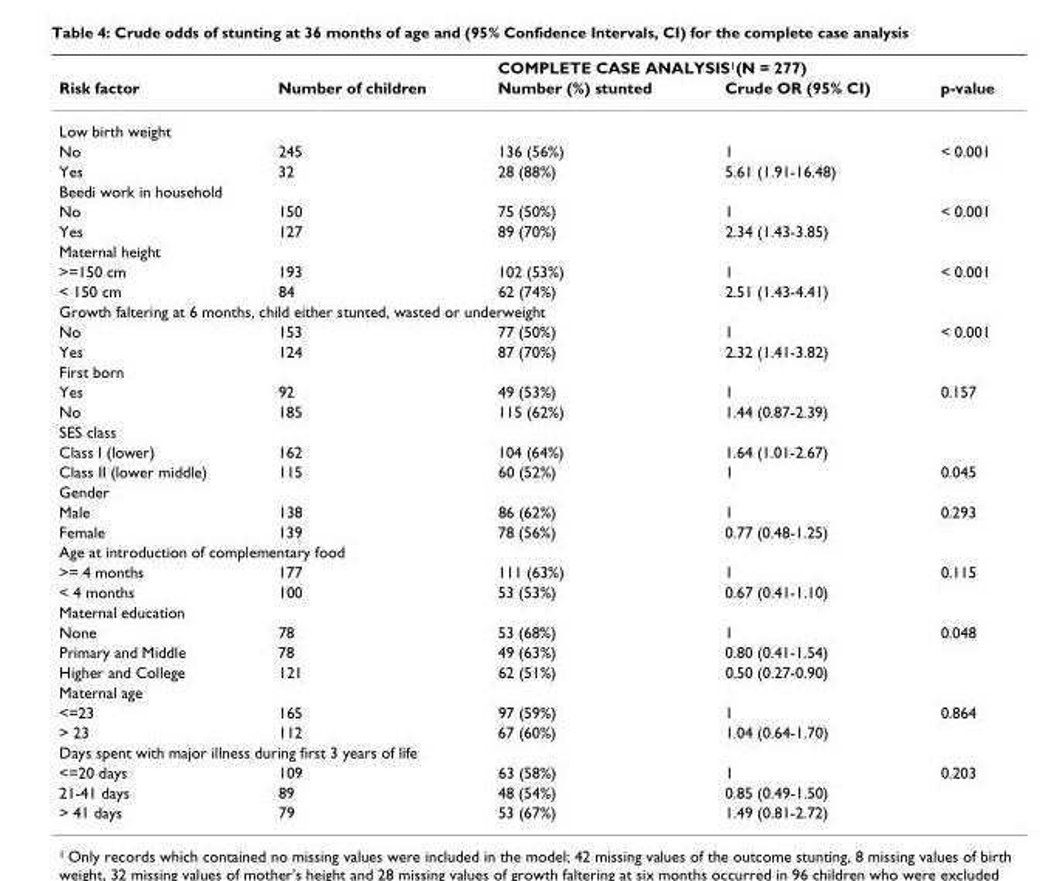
<table><thead><tr><td rowspan="2">Risk factor</td><td rowspan="2">Number of children</td><td colspan="3">COMPLETE CASE ANALYSIS<sup>1</sup>(N = 277)</td></tr><tr><td>Number (%) stunted</td><td>Crude OR (95% CI)</td><td>p-value</td></tr></thead><tbody><tr><td colspan="5">Low birth weight</td></tr><tr><td>No</td><td>245</td><td>136 (56%)</td><td>1</td><td>&lt; 0.001</td></tr><tr><td>Yes</td><td>32</td><td>28 (88%)</td><td>5.61 (1.91-16.48)</td><td></td></tr><tr><td colspan="5">Beedi work in household</td></tr><tr><td>No</td><td>150</td><td>75 (50%)</td><td>1</td><td>&lt; 0.001</td></tr><tr><td>Yes</td><td>127</td><td>89 (70%)</td><td>2.34 (1.43-3.85)</td><td></td></tr><tr><td colspan="5">Maternal height</td></tr><tr><td>&gt;=150 cm</td><td>193</td><td>102 (53%)</td><td>1</td><td>&lt; 0.001</td></tr><tr><td>&lt; 150 cm</td><td>84</td><td>62 (74%)</td><td>2.51 (1.43-4.41)</td><td></td></tr><tr><td colspan="5">Growth faltering at 6 months, child either stunted, wasted or underweight</td></tr><tr><td>No</td><td>153</td><td>77 (50%)</td><td>1</td><td>&lt; 0.001</td></tr><tr><td>Yes</td><td>124</td><td>87 (70%)</td><td>2.32 (1.41-3.82)</td><td></td></tr><tr><td colspan="5">First born</td></tr><tr><td>Yes</td><td>92</td><td>49 (53%)</td><td>1</td><td>0.157</td></tr><tr><td>No</td><td>185</td><td>115 (62%)</td><td>1.44 (0.87-2.39)</td><td></td></tr><tr><td colspan="5">SES class</td></tr><tr><td>Class I (lower)</td><td>162</td><td>104 (64%)</td><td>1.64 (1.01-2.67)</td><td></td></tr><tr><td>Class II (lower middle)</td><td>115</td><td>60 (52%)</td><td>1</td><td>0.045</td></tr><tr><td colspan="5">Gender</td></tr><tr><td>Male</td><td>138</td><td>86 (62%)</td><td>1</td><td>0.293</td></tr><tr><td>Female</td><td>139</td><td>78 (56%)</td><td>0.77 (0.48-1.25)</td><td></td></tr><tr><td colspan="5">Age at introduction of complementary food</td></tr><tr><td>&gt;= 4 months</td><td>177</td><td>111 (63%)</td><td>1</td><td>0.115</td></tr><tr><td>&lt; 4 months</td><td>100</td><td>53 (53%)</td><td>0.67 (0.41-1.10)</td><td></td></tr><tr><td colspan="5">Maternal education</td></tr><tr><td>None</td><td>78</td><td>53 (68%)</td><td>1</td><td>0.048</td></tr><tr><td>Primary and Middle</td><td>78</td><td>49 (63%)</td><td>0.80 (0.41-1.54)</td><td></td></tr><tr><td>Higher and College</td><td>121</td><td>62 (51%)</td><td>0.50 (0.27-0.90)</td><td></td></tr><tr><td colspan="5">Maternal age</td></tr><tr><td>&lt;=23</td><td>165</td><td>97 (59%)</td><td>1</td><td>0.864</td></tr><tr><td>&gt; 23</td><td>112</td><td>67 (60%)</td><td>1.04 (0.64-1.70)</td><td></td></tr><tr><td colspan="5">Days spent with major illness during first 3 years of life</td></tr><tr><td>&lt;=20 days</td><td>109</td><td>63 (58%)</td><td>1</td><td>0.203</td></tr><tr><td>21-41 days</td><td>89</td><td>48 (54%)</td><td>0.85 (0.49-1.50)</td><td></td></tr><tr><td>&gt; 41 days</td><td>79</td><td>53 (67%)</td><td>1.49 (0.81-2.72)</td><td></td></tr></tbody></table>